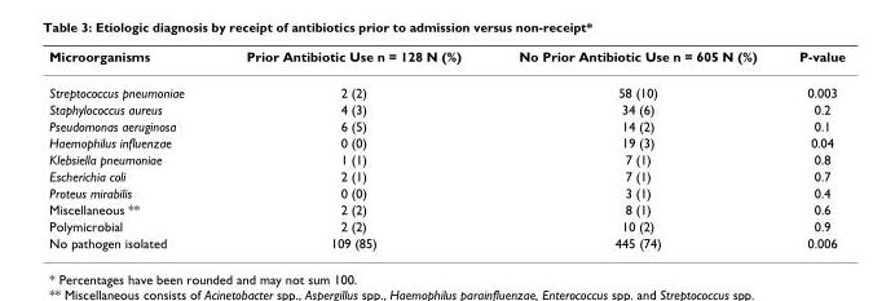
<table><thead><tr><td>Microorganisms</td><td>Prior Antibiotic Use n = 128 N (%)</td><td>No Prior Antibiotic Use n = 605 N (%)</td><td>P-value</td></tr></thead><tbody><tr><td>Streptococcus pneumoniae</td><td>2 (2)</td><td>58 (10)</td><td>0.003</td></tr><tr><td>Staphylococcus aureus</td><td>4 (3)</td><td>34 (6)</td><td>0.2</td></tr><tr><td>Pseudomonas aeruginosa</td><td>6 (5)</td><td>14 (2)</td><td>0.1</td></tr><tr><td>Haemophilus influenzae</td><td>0 (0)</td><td>19 (3)</td><td>0.04</td></tr><tr><td>Klebsiella pneumoniae</td><td>1 (1)</td><td>7 (1)</td><td>0.8</td></tr><tr><td>Escherichia coli</td><td>2 (1)</td><td>7 (1)</td><td>0.7</td></tr><tr><td>Proteus mirabilis</td><td>0 (0)</td><td>3 (1)</td><td>0.4</td></tr><tr><td>Miscellaneous **</td><td>2 (2)</td><td>8 (1)</td><td>0.6</td></tr><tr><td>Polymicrobial</td><td>2 (2)</td><td>10 (2)</td><td>0.9</td></tr><tr><td>No pathogen isolated</td><td>109 (85)</td><td>445 (74)</td><td>0.006</td></tr></tbody></table>